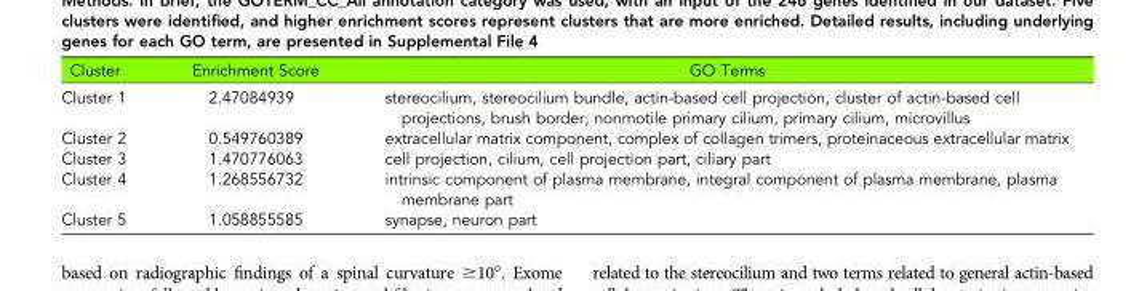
<table><thead><tr><td>Cluster</td><td>Enrichment Score</td><td>GO Terms</td></tr></thead><tbody><tr><td>Cluster 1</td><td>2.47084939</td><td>stereocilium, stereocilium bundle, actin-based cell projection, cluster of actin-based cell projections, brush border, nonmotile primary cilium, primary cilium, microvillus</td></tr><tr><td>Cluster 2</td><td>0.549760389</td><td>extracellular matrix component, complex of collagen trimers, proteinaceous extracellular matrix</td></tr><tr><td>Cluster 3</td><td>1.470776063</td><td>cell projection, cilium, cell projection part, ciliary part</td></tr><tr><td>Cluster 4</td><td>1.268556732</td><td>intrinsic component of plasma membrane, integral component of plasma membrane, plasma membrane part</td></tr><tr><td>Cluster 5</td><td>1.058855585</td><td>synapse, neuron part</td></tr></tbody></table>